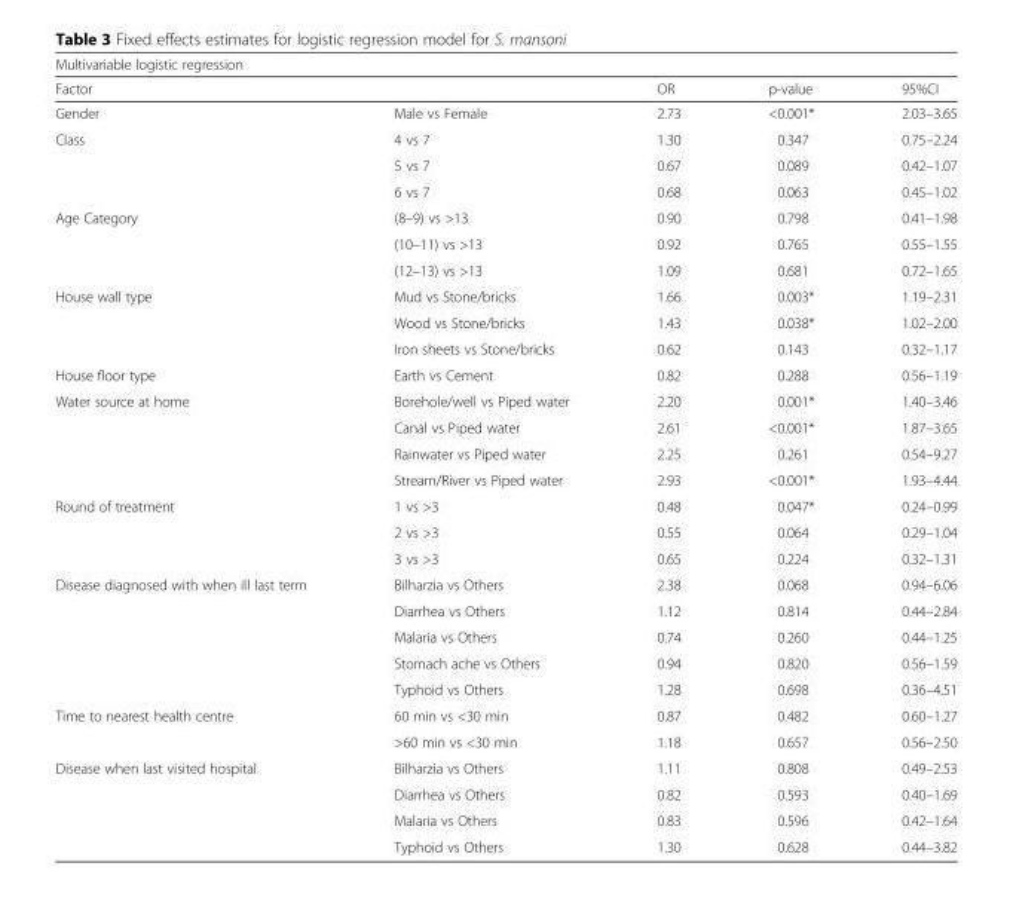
<table><thead><tr><td colspan="5">Multivariable logistic regression</td></tr><tr><td colspan="2">Factor</td><td rowspan="2">OR 2.73</td><td rowspan="2">p-value &lt;0.001*</td><td rowspan="2">95%CI 2.03–3.65</td></tr><tr><td>Gender</td><td>Male vs Female</td></tr></thead><tbody><tr><td rowspan="3">Class</td><td>4 vs 7</td><td>1.30</td><td>0.347</td><td>0.75–2.24</td></tr><tr><td>5 vs 7</td><td>0.67</td><td>0.089</td><td>0.42–1.07</td></tr><tr><td>6 vs 7</td><td>0.68</td><td>0.063</td><td>0.45–1.02</td></tr><tr><td rowspan="3">Age Category</td><td>(8–9) vs &gt;13</td><td>0.90</td><td>0.798</td><td>0.41–1.98</td></tr><tr><td>(10–11) vs &gt;13</td><td>0.92</td><td>0.765</td><td>0.55–1.55</td></tr><tr><td>(12–13) vs &gt;13</td><td>1.09</td><td>0.681</td><td>0.72–1.65</td></tr><tr><td rowspan="3">House wall type</td><td>Mud vs Stone/bricks</td><td>1.66</td><td>0.003*</td><td>1.19–2.31</td></tr><tr><td>Wood vs Stone/bricks</td><td>1.43</td><td>0.038*</td><td>1.02–2.00</td></tr><tr><td>Iron sheets vs Stone/bricks</td><td>0.62</td><td>0.143</td><td>0.32–1.17</td></tr><tr><td>House floor type</td><td>Earth vs Cement</td><td>0.82</td><td>0.288</td><td>0.56–1.19</td></tr><tr><td rowspan="4">Water source at home</td><td>Borehole/well vs Piped water</td><td>2.20</td><td>0.001*</td><td>1.40–3.46</td></tr><tr><td>Canal vs Piped water</td><td>2.61</td><td>&lt;0.001*</td><td>1.87–3.65</td></tr><tr><td>Rainwater vs Piped water</td><td>2.25</td><td>0.261</td><td>0.54–9.27</td></tr><tr><td>Stream/River vs Piped water</td><td>2.93</td><td>&lt;0.001*</td><td>1.93–4.44</td></tr><tr><td rowspan="3">Round of treatment</td><td>1 vs &gt;3</td><td>0.48</td><td>0.047*</td><td>0.24–0.99</td></tr><tr><td>2 vs &gt;3</td><td>0.55</td><td>0.064</td><td>0.29–1.04</td></tr><tr><td>3 vs &gt;3</td><td>0.65</td><td>0.224</td><td>0.32–1.31</td></tr><tr><td rowspan="5">Disease diagnosed with when ill last term</td><td>Bilharzia vs Others</td><td>2.38</td><td>0.068</td><td>0.94–6.06</td></tr><tr><td>Diarrhea vs Others</td><td>1.12</td><td>0.814</td><td>0.44–2.84</td></tr><tr><td>Malaria vs Others</td><td>0.74</td><td>0.260</td><td>0.44–1.25</td></tr><tr><td>Stomach ache vs Others</td><td>0.94</td><td>0.820</td><td>0.56–1.59</td></tr><tr><td>Typhoid vs Others</td><td>1.28</td><td>0.698</td><td>0.36–4.51</td></tr><tr><td rowspan="2">Time to nearest health centre</td><td>60 min vs &lt;30 min</td><td>0.87</td><td>0.482</td><td>0.60–1.27</td></tr><tr><td>&gt;60 min vs &lt;30 min</td><td>1.18</td><td>0.657</td><td>0.56–2.50</td></tr><tr><td rowspan="4">Disease when last visited hospital</td><td>Bilharzia vs Others</td><td>1.11</td><td>0.808</td><td>0.49–2.53</td></tr><tr><td>Diarrhea vs Others</td><td>0.82</td><td>0.593</td><td>0.40–1.69</td></tr><tr><td>Malaria vs Others</td><td>0.83</td><td>0.596</td><td>0.42–1.64</td></tr><tr><td>Typhoid vs Others</td><td>1.30</td><td>0.628</td><td>0.44–3.82</td></tr></tbody></table>